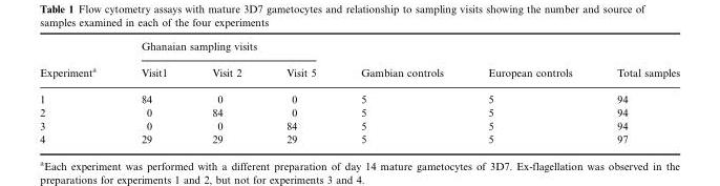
<table><thead><tr><td rowspan="2">Experiment<sup>a</sup></td><td colspan="3">Ghanaian sampling visits</td><td rowspan="2">Gambian controls</td><td rowspan="2">European controls</td><td rowspan="2">Total samples</td></tr><tr><td>Visit1</td><td>Visit 2</td><td>Visit 5</td></tr></thead><tbody><tr><td>1</td><td>84</td><td>0</td><td>0</td><td>5</td><td>5</td><td>94</td></tr><tr><td>2</td><td>0</td><td>84</td><td>0</td><td>5</td><td>5</td><td>94</td></tr><tr><td>3</td><td>0</td><td>0</td><td>84</td><td>5</td><td>5</td><td>94</td></tr><tr><td>4</td><td>29</td><td>29</td><td>29</td><td>5</td><td>5</td><td>97</td></tr></tbody></table>